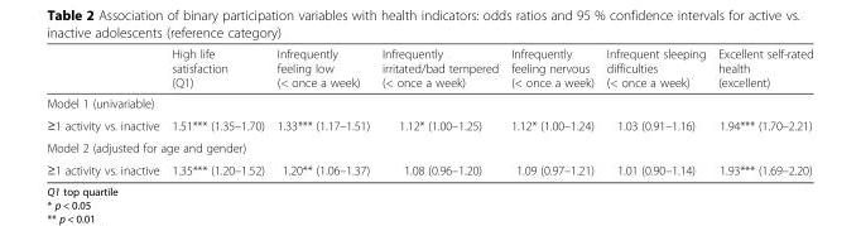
<table><thead><tr><td></td><td>High life satisfaction (Q1)</td><td>Infrequently feeling low (&lt; once a week)</td><td>Infrequently irritated/bad tempered (&lt; once a week)</td><td>Infrequently feeling nervous (&lt; once a week)</td><td>Infrequent sleeping difficulties (&lt; once a week)</td><td>Excellent self-rated health (excellent)</td></tr></thead><tbody><tr><td colspan="7">Model 1 (univariable)</td></tr><tr><td>≥1 activity vs. inactive</td><td>1.51*** (1.35–1.70)</td><td>1.33*** (1.17–1.51)</td><td>1.12* (1.00–1.25)</td><td>1.12* (1.00–1.24)</td><td>1.03 (0.91–1.16)</td><td>1.94*** (1.70–2.21)</td></tr><tr><td colspan="7">Model 2 (adjusted for age and gender)</td></tr><tr><td>≥1 activity vs. inactive</td><td>1.35*** (1.20–1.52)</td><td>1.20** (1.06–1.37)</td><td>1.08 (0.96–1.20)</td><td>1.09 (0.97–1.21)</td><td>1.01 (0.90–1.14)</td><td>1.93*** (1.69–2.20)</td></tr></tbody></table>